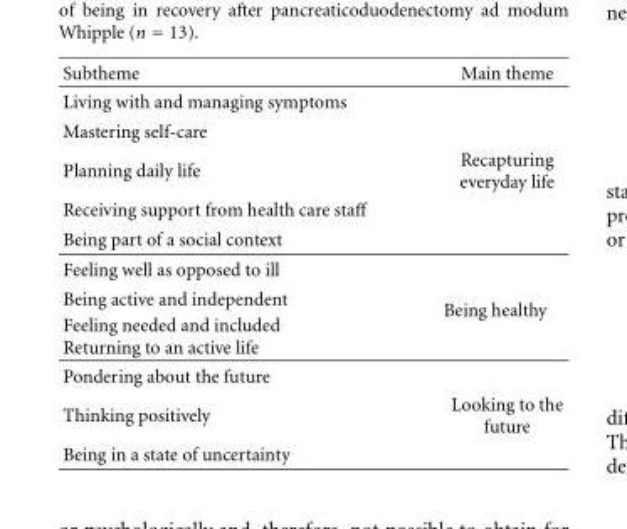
<table><thead><tr><td>Subtheme</td><td>Main theme</td></tr></thead><tbody><tr><td colspan="2">Living with and managing symptoms</td></tr><tr><td colspan="2">Mastering self-care</td></tr><tr><td>Planning daily life</td><td>Recapturing everyday life</td></tr><tr><td colspan="2">Receiving support from health care staff</td></tr><tr><td colspan="2">Being part of a social context</td></tr><tr><td colspan="2">Feeling well as opposed to ill</td></tr><tr><td>Being active and independent</td><td rowspan="2">Being healthy</td></tr><tr><td>Feeling needed and included</td></tr><tr><td colspan="2">Returning to an active life</td></tr><tr><td colspan="2">Pondering about the future</td></tr><tr><td>Thinking positively</td><td>Looking to the future</td></tr><tr><td>Being in a state of uncertainty</td><td></td></tr></tbody></table>